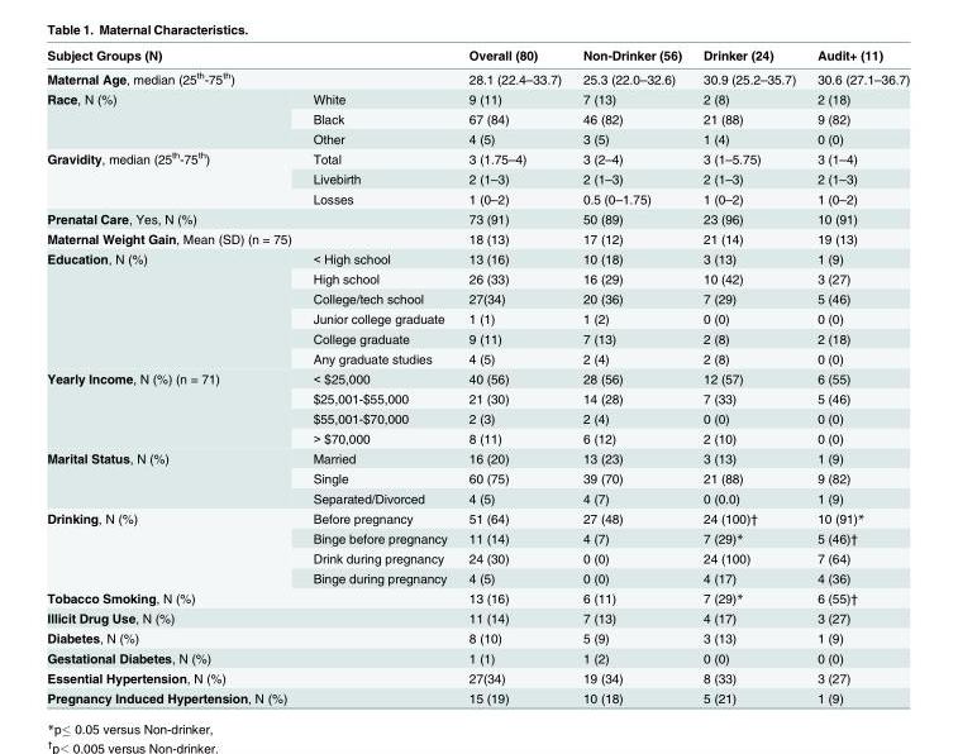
<table><thead><tr><td>Subject Groups (N)</td><td></td><td>Overall (80)</td><td>Non-Drinker (56)</td><td>Drinker (24)</td><td>Audit+ (11)</td></tr></thead><tbody><tr><td>Maternal Age, median (25<sup>th</sup>-75<sup>th</sup>)</td><td></td><td>28.1 (22.4–33.7)</td><td>25.3 (22.0–32.6)</td><td>30.9 (25.2–35.7)</td><td>30.6 (27.1–36.7)</td></tr><tr><td rowspan="3">Race, N (%)</td><td>White</td><td>9 (11)</td><td>7 (13)</td><td>2 (8)</td><td>2 (18)</td></tr><tr><td>Black</td><td>67 (84)</td><td>46 (82)</td><td>21 (88)</td><td>9 (82)</td></tr><tr><td>Other</td><td>4 (5)</td><td>3 (5)</td><td>1 (4)</td><td>0 (0)</td></tr><tr><td rowspan="3">Gravidity, median (25<sup>th</sup>-75<sup>th</sup>)</td><td>Total</td><td>3 (1.75–4)</td><td>3 (2–4)</td><td>3 (1–5.75)</td><td>3 (1–4)</td></tr><tr><td>Livebirth</td><td>2 (1–3)</td><td>2 (1–3)</td><td>2 (1–3)</td><td>2 (1–3)</td></tr><tr><td>Losses</td><td>1 (0–2)</td><td>0.5 (0–1.75)</td><td>1 (0–2)</td><td>1 (0–2)</td></tr><tr><td>Prenatal Care, Yes, N (%)</td><td></td><td>73 (91)</td><td>50 (89)</td><td>23 (96)</td><td>10 (91)</td></tr><tr><td>Maternal Weight Gain, Mean (SD) (n = 75)</td><td></td><td>18 (13)</td><td>17 (12)</td><td>21 (14)</td><td>19 (13)</td></tr><tr><td rowspan="6">Education, N (%)</td><td>&lt; High school</td><td>13 (16)</td><td>10 (18)</td><td>3 (13)</td><td>1 (9)</td></tr><tr><td>High school</td><td>26 (33)</td><td>16 (29)</td><td>10 (42)</td><td>3 (27)</td></tr><tr><td>College/tech school</td><td>27(34)</td><td>20 (36)</td><td>7 (29)</td><td>5 (46)</td></tr><tr><td>Junior college graduate</td><td>1 (1)</td><td>1 (2)</td><td>0 (0)</td><td>0 (0)</td></tr><tr><td>College graduate</td><td>9 (11)</td><td>7 (13)</td><td>2 (8)</td><td>2 (18)</td></tr><tr><td>Any graduate studies</td><td>4 (5)</td><td>2 (4)</td><td>2 (8)</td><td>0 (0)</td></tr><tr><td rowspan="4">Yearly Income, N (%) (n = 71)</td><td>&lt; $25,000</td><td>40 (56)</td><td>28 (56)</td><td>12 (57)</td><td>6 (55)</td></tr><tr><td>$25,001-$55,000</td><td>21 (30)</td><td>14 (28)</td><td>7 (33)</td><td>5 (46)</td></tr><tr><td>$55,001-$70,000</td><td>2 (3)</td><td>2 (4)</td><td>0 (0)</td><td>0 (0)</td></tr><tr><td>&gt; $70,000</td><td>8 (11)</td><td>6 (12)</td><td>2 (10)</td><td>0 (0)</td></tr><tr><td rowspan="3">Marital Status, N (%)</td><td>Married</td><td>16 (20)</td><td>13 (23)</td><td>3 (13)</td><td>1 (9)</td></tr><tr><td>Single</td><td>60 (75)</td><td>39 (70)</td><td>21 (88)</td><td>9 (82)</td></tr><tr><td>Separated/Divorced</td><td>4 (5)</td><td>4 (7)</td><td>0 (0.0)</td><td>1 (9)</td></tr><tr><td rowspan="4">Drinking, N (%)</td><td>Before pregnancy</td><td>51 (64)</td><td>27 (48)</td><td>24 (100)†</td><td>10 (91)*</td></tr><tr><td>Binge before pregnancy</td><td>11 (14)</td><td>4 (7)</td><td>7 (29)*</td><td>5 (46)†</td></tr><tr><td>Drink during pregnancy</td><td>24 (30)</td><td>0 (0)</td><td>24 (100)</td><td>7 (64)</td></tr><tr><td>Binge during pregnancy</td><td>4 (5)</td><td>0 (0)</td><td>4 (17)</td><td>4 (36)</td></tr><tr><td>Tobacco Smoking, N (%)</td><td></td><td>13 (16)</td><td>6 (11)</td><td>7 (29)*</td><td>6 (55)†</td></tr><tr><td>Illicit Drug Use, N (%)</td><td></td><td>11 (14)</td><td>7 (13)</td><td>4 (17)</td><td>3 (27)</td></tr><tr><td>Diabetes, N (%)</td><td></td><td>8 (10)</td><td>5 (9)</td><td>3 (13)</td><td>1 (9)</td></tr><tr><td>Gestational Diabetes, N (%)</td><td></td><td>1 (1)</td><td>1 (2)</td><td>0 (0)</td><td>0 (0)</td></tr><tr><td>Essential Hypertension, N (%)</td><td></td><td>27(34)</td><td>19 (34)</td><td>8 (33)</td><td>3 (27)</td></tr><tr><td>Pregnancy Induced Hypertension, N (%)</td><td></td><td>15 (19)</td><td>10 (18)</td><td>5 (21)</td><td>1 (9)</td></tr></tbody></table>